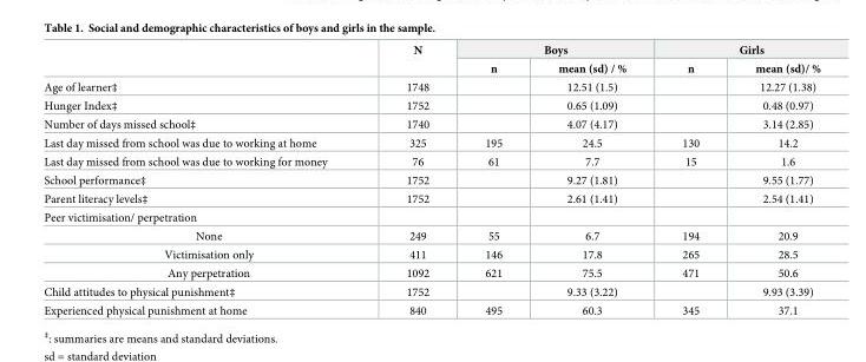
<table><thead><tr><td rowspan="2"></td><td rowspan="2">N</td><td colspan="2">Boys</td><td colspan="2">Girls</td></tr><tr><td>n</td><td>mean (sd) / %</td><td>n</td><td>mean (sd)/ %</td></tr></thead><tbody><tr><td>Age of learner‡</td><td>1748</td><td></td><td>12.51 (1.5)</td><td></td><td>12.27 (1.38)</td></tr><tr><td>Hunger Index‡</td><td>1752</td><td></td><td>0.65 (1.09)</td><td></td><td>0.48 (0.97)</td></tr><tr><td>Number of days missed school‡</td><td>1740</td><td></td><td>4.07 (4.17)</td><td></td><td>3.14 (2.85)</td></tr><tr><td>Last day missed from school was due to working at home</td><td>325</td><td>195</td><td>24.5</td><td>130</td><td>14.2</td></tr><tr><td>Last day missed from school was due to working for money</td><td>76</td><td>61</td><td>7.7</td><td>15</td><td>1.6</td></tr><tr><td>School performance‡</td><td>1752</td><td></td><td>9.27 (1.81)</td><td></td><td>9.55 (1.77)</td></tr><tr><td>Parent literacy levels‡</td><td>1752</td><td></td><td>2.61 (1.41)</td><td></td><td>2.54 (1.41)</td></tr><tr><td colspan="6">Peer victimisation/ perpetration</td></tr><tr><td>None</td><td>249</td><td>55</td><td>6.7</td><td>194</td><td>20.9</td></tr><tr><td>Victimisation only</td><td>411</td><td>146</td><td>17.8</td><td>265</td><td>28.5</td></tr><tr><td>Any perpetration</td><td>1092</td><td>621</td><td>75.5</td><td>471</td><td>50.6</td></tr><tr><td>Child attitudes to physical punishment‡</td><td>1752</td><td></td><td>9.33 (3.22)</td><td></td><td>9.93 (3.39)</td></tr><tr><td>Experienced physical punishment at home</td><td>840</td><td>495</td><td>60.3</td><td>345</td><td>37.1</td></tr></tbody></table>